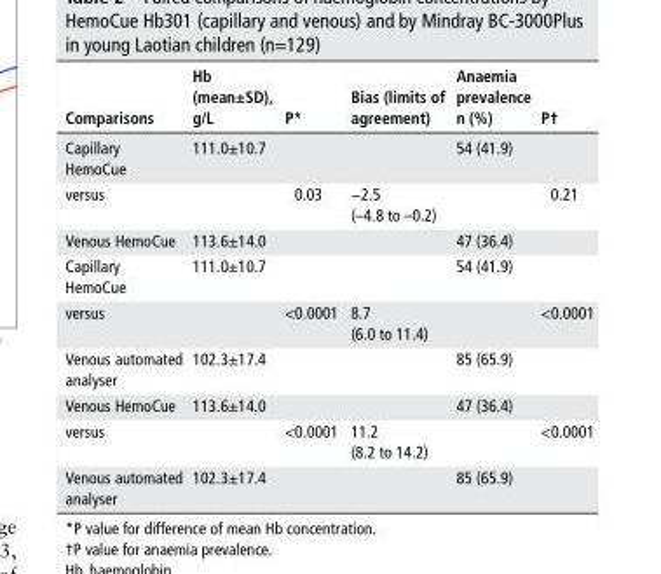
<table><thead><tr><td>Comparisons</td><td>hb (mean±sd), g/l</td><td>P*</td><td>bias (limits of agreement)</td><td>Anaemia prevalence n (%)</td><td>P†</td></tr></thead><tbody><tr><td>Capillary HemoCue</td><td>111.0±10.7</td><td></td><td></td><td>54 (41.9)</td><td></td></tr><tr><td>versus</td><td></td><td>0.03</td><td>−2.5 (–4.8 to –0.2)</td><td></td><td>0.21</td></tr><tr><td>Venous HemoCue</td><td>113.6±14.0</td><td></td><td></td><td>47 (36.4)</td><td></td></tr><tr><td>Capillary HemoCue</td><td>111.0±10.7</td><td></td><td></td><td>54 (41.9)</td><td></td></tr><tr><td>versus</td><td></td><td>&lt;0.0001</td><td>8.7 (6.0 to 11.4)</td><td></td><td>&lt;0.0001</td></tr><tr><td>Venous automated analyser</td><td>102.3±17.4</td><td></td><td></td><td>85 (65.9)</td><td></td></tr><tr><td>Venous HemoCue</td><td>113.6±14.0</td><td></td><td></td><td>47 (36.4)</td><td></td></tr><tr><td>versus</td><td></td><td>&lt;0.0001</td><td>11.2 (8.2 to 14.2)</td><td></td><td>&lt;0.0001</td></tr><tr><td>Venous automated analyser</td><td>102.3±17.4</td><td></td><td></td><td>85 (65.9)</td><td></td></tr></tbody></table>